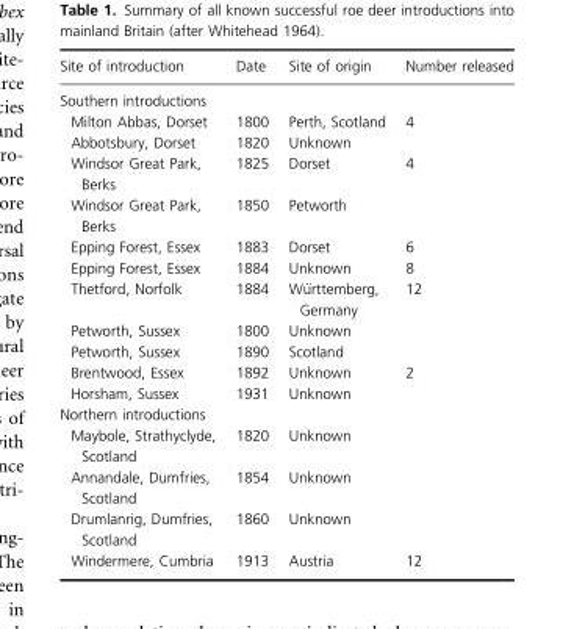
<table><thead><tr><td>Site of introduction</td><td>Date</td><td>Site of origin</td><td>Number released</td></tr></thead><tbody><tr><td colspan="4">Southern introductions</td></tr><tr><td>Milton Abbas, Dorset</td><td>1800</td><td>Perth, Scotland</td><td>4</td></tr><tr><td>Abbotsbury, Dorset</td><td>1820</td><td>Unknown</td><td></td></tr><tr><td>Windsor Great Park, Berks</td><td>1825</td><td>Dorset</td><td>4</td></tr><tr><td>Windsor Great Park, Berks</td><td>1850</td><td>Petworth</td><td></td></tr><tr><td>Epping Forest, Essex</td><td>1883</td><td>Dorset</td><td>6</td></tr><tr><td>Epping Forest, Essex</td><td>1884</td><td>Unknown</td><td>8</td></tr><tr><td>Thetford, Norfolk</td><td>1884</td><td>W€urttemberg, Germany</td><td>12</td></tr><tr><td>Petworth, Sussex</td><td>1800</td><td>Unknown</td><td></td></tr><tr><td>Petworth, Sussex</td><td>1890</td><td>Scotland</td><td></td></tr><tr><td>Brentwood, Essex</td><td>1892</td><td>Unknown</td><td>2</td></tr><tr><td>Horsham, Sussex</td><td>1931</td><td>Unknown</td><td></td></tr><tr><td colspan="4">Northern introductions</td></tr><tr><td>Maybole, Strathyclyde, Scotland</td><td>1820</td><td>Unknown</td><td></td></tr><tr><td>Annandale, Dumfries, Scotland</td><td>1854</td><td>Unknown</td><td></td></tr><tr><td>Drumlanrig, Dumfries, Scotland</td><td>1860</td><td>Unknown</td><td></td></tr><tr><td>Windermere, Cumbria</td><td>1913</td><td>Austria</td><td>12</td></tr></tbody></table>